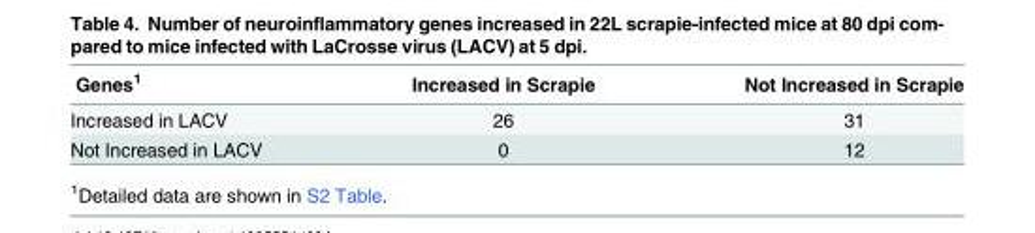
<table><thead><tr><td>Genes<sup>1</sup></td><td>Increased in Scrapie</td><td>Not Increased in Scrapie</td></tr></thead><tbody><tr><td>Increased in LACV</td><td>26</td><td>31</td></tr><tr><td>Not Increased in LACV</td><td>0</td><td>12</td></tr></tbody></table>